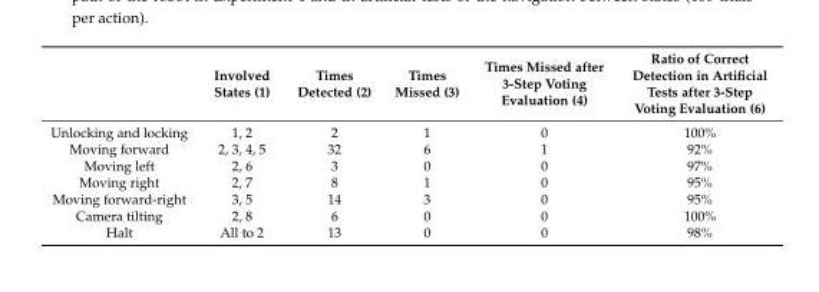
<table><thead><tr><td></td><td>Involved States (1)</td><td>Times Detected (2)</td><td>Times Missed (3)</td><td>Times Missed after 3-Step Voting Evaluation (4)</td><td>Ratio of Correct Detection in Artificial Tests after 3-Step Voting Evaluation (6)</td></tr></thead><tbody><tr><td>Unlocking and locking</td><td>1, 2</td><td>2</td><td>1</td><td>0</td><td>100%</td></tr><tr><td>Moving forward</td><td>2, 3, 4, 5</td><td>32</td><td>6</td><td>1</td><td>92%</td></tr><tr><td>Moving left</td><td>2, 6</td><td>3</td><td>0</td><td>0</td><td>97%</td></tr><tr><td>Moving right</td><td>2, 7</td><td>8</td><td>1</td><td>0</td><td>95%</td></tr><tr><td>Moving forward-right</td><td>3, 5</td><td>14</td><td>3</td><td>0</td><td>95%</td></tr><tr><td>Camera tilting</td><td>2, 8</td><td>6</td><td>0</td><td>0</td><td>100%</td></tr><tr><td>Halt</td><td>All to 2</td><td>13</td><td>0</td><td>0</td><td>98%</td></tr></tbody></table>